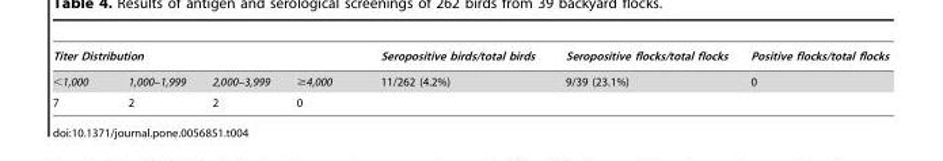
<table><thead><tr><td colspan="4">Titer Distribution</td><td rowspan="2">Seropositive birds/total birds 11/262 (4.2%)</td><td rowspan="2">Seropositive flocks/total flocks 9/39 (23.1%)</td><td rowspan="2">Positive flocks/total flocks 0</td></tr><tr><td>&lt;1,000</td><td>1,000–1,999</td><td>2,000–3,999</td><td>≥4,000</td></tr></thead><tbody><tr><td>7</td><td>2</td><td>2</td><td>0</td><td></td><td></td><td></td></tr></tbody></table>